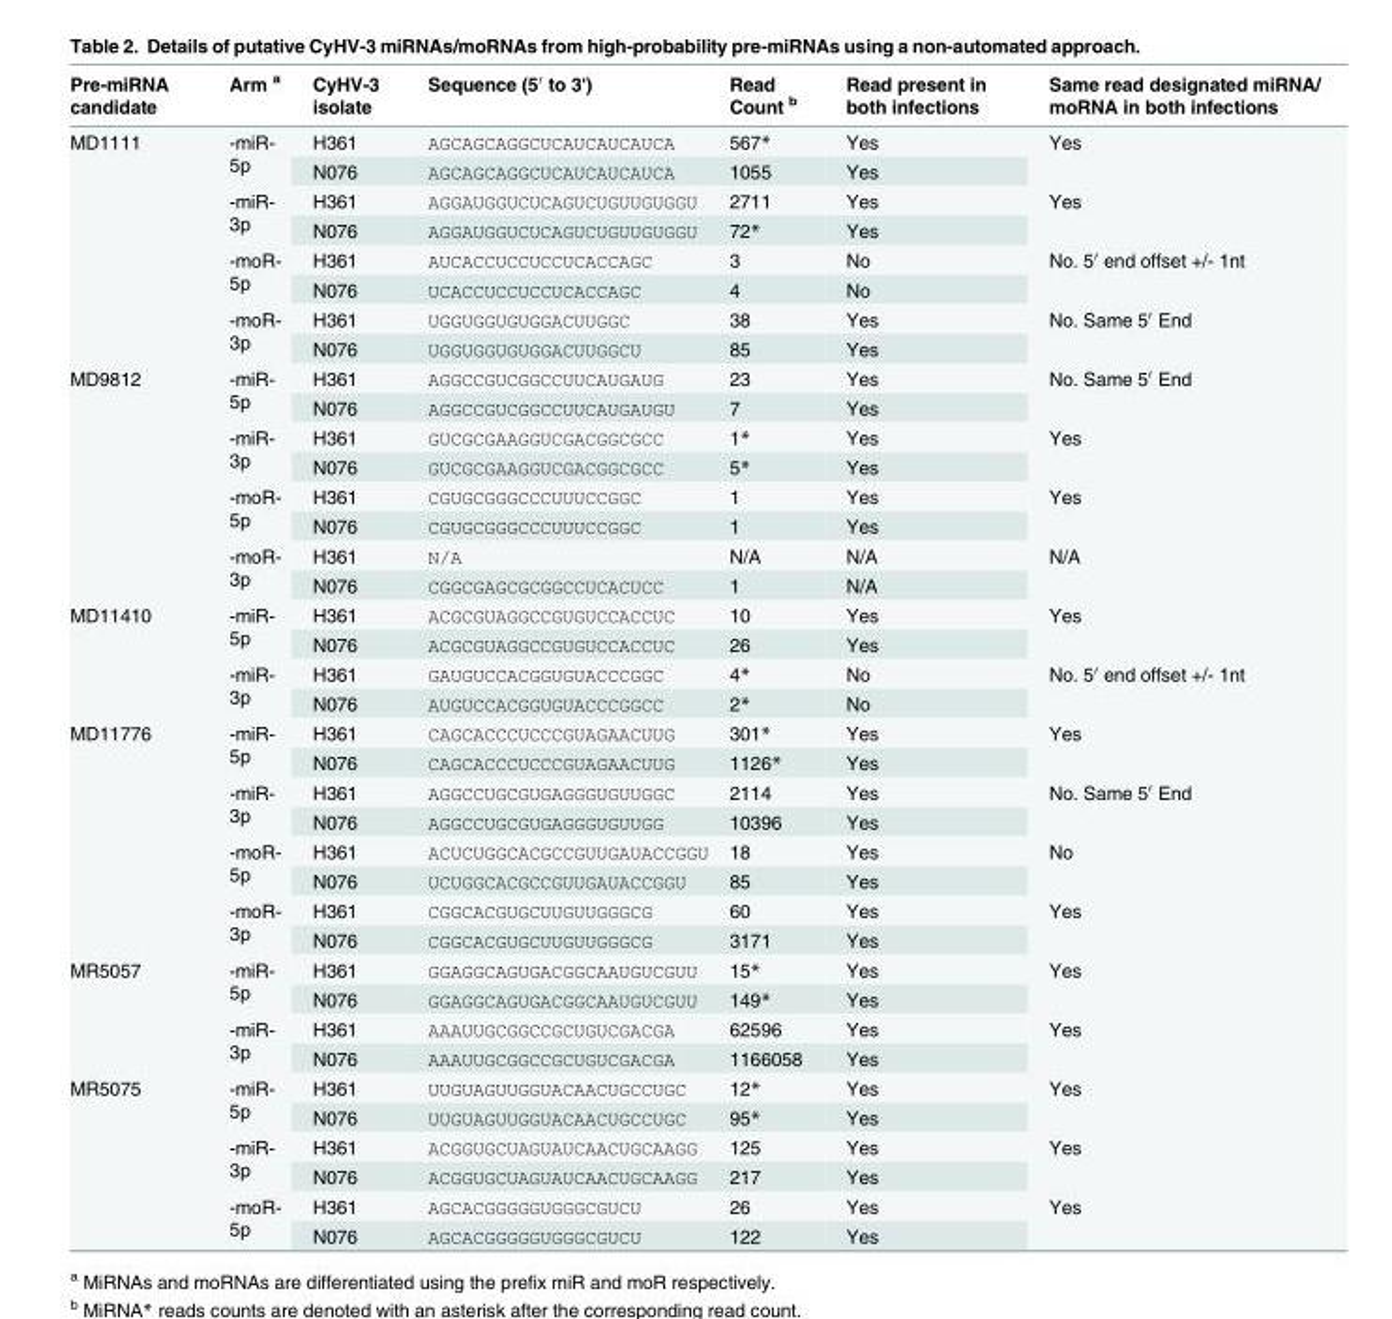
<table><thead><tr><td>Pre-miRNA candidate</td><td>Arm <sup>a</sup></td><td>CyHV-3 isolate</td><td>Sequence (5′ to 3&#x27;)</td><td>Read Count <sup>b</sup></td><td>Read present in both infections</td><td>Same read designated miRNA/ moRNA in both infections</td></tr></thead><tbody><tr><td rowspan="8">MD1111</td><td rowspan="2">-miR- 5p</td><td>H361</td><td>AGCAGCAGGCUCAUCAUCAUCA</td><td>567*</td><td>Yes</td><td rowspan="2">Yes</td></tr><tr><td>N076</td><td>AGCAGCAGGCUCAUCAUCAUCA</td><td>1055</td><td>Yes</td></tr><tr><td rowspan="2">-miR- 3p</td><td>H361</td><td>AGGAUGGUCUCAGUCUGUUGUGGU</td><td>2711</td><td>Yes</td><td rowspan="2">Yes</td></tr><tr><td>N076</td><td>AGGAUGGUCUCAGUCUGUUGUGGU</td><td>72*</td><td>Yes</td></tr><tr><td rowspan="2">-moR- 5p</td><td>H361</td><td>AUCACCUCCUCCUCACCAGC</td><td>3</td><td>No</td><td rowspan="2">No. 5′ end offset +/- 1nt</td></tr><tr><td>N076</td><td>UCACCUCCUCCUCACCAGC</td><td>4</td><td>No</td></tr><tr><td rowspan="2">-moR- 3p</td><td>H361</td><td>UGGUGGUGUGGACUUGGC</td><td>38</td><td>Yes</td><td rowspan="2">No. Same 5′ End</td></tr><tr><td>N076</td><td>UGGUGGUGUGGACUUGGCU</td><td>85</td><td>Yes</td></tr><tr><td rowspan="8">MD9812</td><td rowspan="2">-miR- 5p</td><td>H361</td><td>AGGCCGUCGGCCUUCAUGAUG</td><td>23</td><td>Yes</td><td rowspan="2">No. Same 5′ End</td></tr><tr><td>N076</td><td>AGGCCGUCGGCCUUCAUGAUGU</td><td>7</td><td>Yes</td></tr><tr><td rowspan="2">-miR- 3p</td><td>H361</td><td>GUCGCGAAGGUCGACGGCGCC</td><td>1*</td><td>Yes</td><td rowspan="2">Yes</td></tr><tr><td>N076</td><td>GUCGCGAAGGUCGACGGCGCC</td><td>5*</td><td>Yes</td></tr><tr><td rowspan="2">-moR- 5p</td><td>H361</td><td>CGUGCGGGCCCUUUCCGGC</td><td>1</td><td>Yes</td><td rowspan="2">Yes</td></tr><tr><td>N076</td><td>CGUGCGGGCCCUUUCCGGC</td><td>1</td><td>Yes</td></tr><tr><td rowspan="2">-moR- 3p</td><td>H361</td><td>N/A</td><td>N/A</td><td>N/A</td><td rowspan="2">N/A</td></tr><tr><td>N076</td><td>CGGCGAGCGCGGCCUCACUCC</td><td>1</td><td>N/A</td></tr><tr><td rowspan="4">MD11410</td><td rowspan="2">-miR- 5p</td><td>H361</td><td>ACGCGUAGGCCGUGUCCACCUC</td><td>10</td><td>Yes</td><td rowspan="2">Yes</td></tr><tr><td>N076</td><td>ACGCGUAGGCCGUGUCCACCUC</td><td>26</td><td>Yes</td></tr><tr><td rowspan="2">-miR- 3p</td><td>H361</td><td>GAUGUCCACGGUGUACCCGGC</td><td>4*</td><td>No</td><td rowspan="2">No. 5′ end offset +/- 1nt</td></tr><tr><td>N076</td><td>AUGUCCACGGUGUACCCGGCC</td><td>2*</td><td>No</td></tr><tr><td rowspan="8">MD11776</td><td rowspan="2">-miR- 5p</td><td>H361</td><td>CAGCACCCUCCCGUAGAACUUG</td><td>301*</td><td>Yes</td><td rowspan="2">Yes</td></tr><tr><td>N076</td><td>CAGCACCCUCCCGUAGAACUUG</td><td>1126*</td><td>Yes</td></tr><tr><td rowspan="2">-miR- 3p</td><td>H361</td><td>AGGCCUGCGUGAGGGUGUUGGC</td><td>2114</td><td>Yes</td><td rowspan="2">No. Same 5′ End</td></tr><tr><td>N076</td><td>AGGCCUGCGUGAGGGUGUUGG</td><td>10396</td><td>Yes</td></tr><tr><td rowspan="2">-moR- 5p</td><td>H361</td><td>ACUCUGGCACGCCGUUGAUACCGGU</td><td>18</td><td>Yes</td><td rowspan="2">No</td></tr><tr><td>N076</td><td>UCUGGCACGCCGUUGAUACCGGU</td><td>85</td><td>Yes</td></tr><tr><td rowspan="2">-moR- 3p</td><td>H361</td><td>CGGCACGUGCUUGUUGGGCG</td><td>60</td><td>Yes</td><td rowspan="2">Yes</td></tr><tr><td>N076</td><td>CGGCACGUGCUUGUUGGGCG</td><td>3171</td><td>Yes</td></tr><tr><td rowspan="4">MR5057</td><td rowspan="2">-miR- 5p</td><td>H361</td><td>GGAGGCAGUGACGGCAAUGUCGUU</td><td>15*</td><td>Yes</td><td rowspan="2">Yes</td></tr><tr><td>N076</td><td>GGAGGCAGUGACGGCAAUGUCGUU</td><td>149*</td><td>Yes</td></tr><tr><td rowspan="2">-miR- 3p</td><td>H361</td><td>AAAUUGCGGCCGCUGUCGACGA</td><td>62596</td><td>Yes</td><td rowspan="2">Yes</td></tr><tr><td>N076</td><td>AAAUUGCGGCCGCUGUCGACGA</td><td>1166058</td><td>Yes</td></tr><tr><td rowspan="6">MR5075</td><td rowspan="2">-miR- 5p</td><td>H361</td><td>UUGUAGUUGGUACAACUGCCUGC</td><td>12*</td><td>Yes</td><td rowspan="2">Yes</td></tr><tr><td>N076</td><td>UUGUAGUUGGUACAACUGCCUGC</td><td>95*</td><td>Yes</td></tr><tr><td rowspan="2">-miR- 3p</td><td>H361</td><td>ACGGUGCUAGUAUCAACUGCAAGG</td><td>125</td><td>Yes</td><td rowspan="2">Yes</td></tr><tr><td>N076</td><td>ACGGUGCUAGUAUCAACUGCAAGG</td><td>217</td><td>Yes</td></tr><tr><td rowspan="2">-moR- 5p</td><td>H361</td><td>AGCACGGGGGUGGGCGUCU</td><td>26</td><td>Yes</td><td rowspan="2">Yes</td></tr><tr><td>N076</td><td>AGCACGGGGGUGGGCGUCU</td><td>122</td><td>Yes</td></tr></tbody></table>